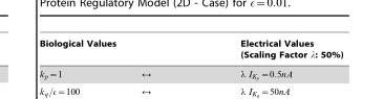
<table><thead><tr><td>Biological Values</td><td>Electrical Values (Scaling Factor l: 50%)</td></tr></thead><tbody></tbody></table>